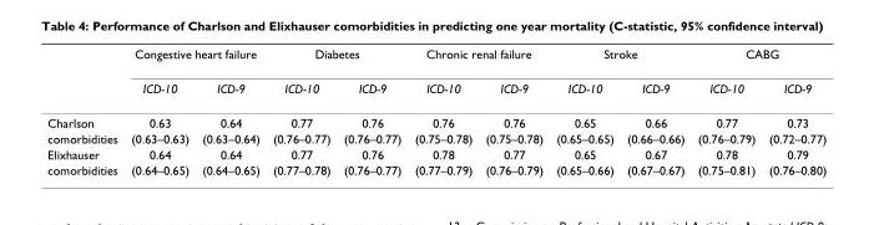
<table><thead><tr><td rowspan="2"></td><td colspan="2">Congestive heart failure</td><td colspan="2">Diabetes</td><td colspan="2">Chronic renal failure</td><td colspan="2">Stroke</td><td colspan="2">CABG</td></tr><tr><td>ICD-10</td><td>ICD-9</td><td>ICD-10</td><td>ICD-9</td><td>ICD-10</td><td>ICD-9</td><td>ICD-10</td><td>ICD-9</td><td>ICD-10</td><td>ICD-9</td></tr></thead><tbody><tr><td>Charlson</td><td>0.63</td><td>0.64</td><td>0.77</td><td>0.76</td><td>0.76</td><td>0.76</td><td>0.65</td><td>0.66</td><td>0.77</td><td>0.73</td></tr><tr><td>comorbidities</td><td>(0.63–0.63)</td><td>(0.63–0.64)</td><td>(0.76–0.77)</td><td>(0.76–0.77)</td><td>(0.75–0.78)</td><td>(0.75–0.78)</td><td>(0.65–0.65)</td><td>(0.66–0.66)</td><td>(0.76–0.79)</td><td>(0.72–0.77)</td></tr><tr><td>Elixhauser</td><td>0.64</td><td>0.64</td><td>0.77</td><td>0.76</td><td>0.78</td><td>0.77</td><td>0.65</td><td>0.67</td><td>0.78</td><td>0.79</td></tr><tr><td>comorbidities</td><td>(0.64–0.65)</td><td>(0.64–0.65)</td><td>(0.77–0.78)</td><td>(0.76–0.77)</td><td>(0.77–0.79)</td><td>(0.76–0.79)</td><td>(0.65–0.66)</td><td>(0.67–0.67)</td><td>(0.75–0.81)</td><td>(0.76–0.80)</td></tr></tbody></table>